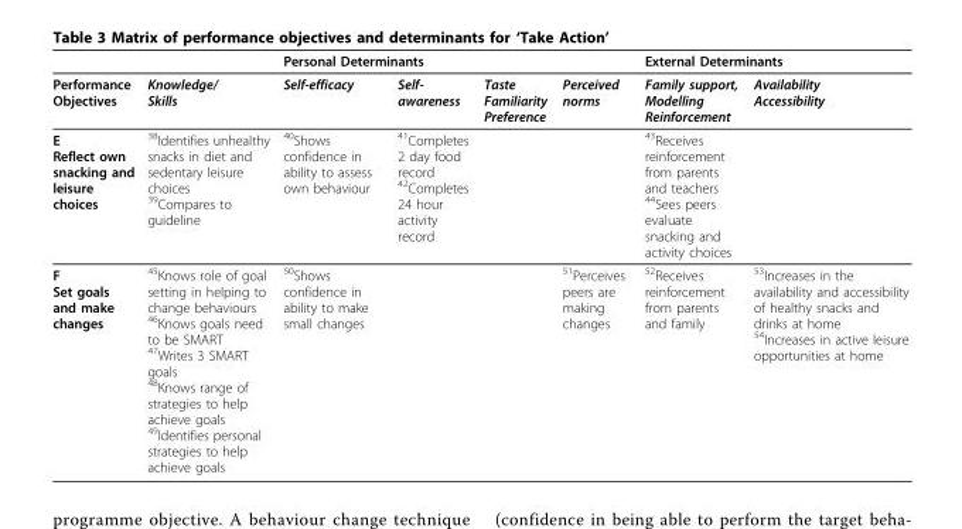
<table><thead><tr><td rowspan="2">Performance Objectives</td><td rowspan="2">Knowledge/ Skills</td><td colspan="4">Personal Determinants</td><td colspan="2">External Determinants</td></tr><tr><td>Self-efficacy</td><td>Self- awareness</td><td>Taste Familiarity Preference</td><td>Perceived norms</td><td>Family support, Modelling Reinforcement</td><td>Availability Accessibility</td></tr></thead><tbody><tr><td>E Reflect own snacking and leisure choices</td><td>38Identifies unhealthy snacks in diet and sedentary leisure choices 39Compares to guideline</td><td>40Shows confidence in ability to assess own behaviour</td><td>41Completes 2 day food record 42Completes 24 hour activity record</td><td></td><td></td><td>43Receives reinforcement from parents and teachers 44Sees peers evaluate snacking and activity choices</td><td></td></tr><tr><td>F Set goals and make changes</td><td>45Knows role of goal setting in helping to change behaviours 46Knows goals need to be SMART 47Writes 3 SMART goals 48Knows range of strategies to help achieve goals 49Identifies personal strategies to help achieve goals</td><td>50Shows confidence in ability to make small changes</td><td></td><td></td><td>51Perceives peers are making changes</td><td>52Receives reinforcement from parents and family</td><td>53Increases in the availability and accessibility of healthy snacks and drinks at home 54Increases in active leisure opportunities at home</td></tr></tbody></table>